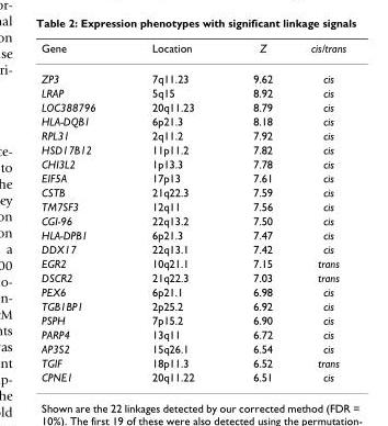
<table><thead><tr><td>Gene</td><td>Location</td><td>Z</td><td>cis/trans</td></tr></thead><tbody><tr><td>ZP3</td><td>7q11.23</td><td>9.62</td><td>cis</td></tr><tr><td>LRAP</td><td>5q15</td><td>8.92</td><td>cis</td></tr><tr><td>LOC388796</td><td>20q11.23</td><td>8.79</td><td>cis</td></tr><tr><td>HLA-DQB1</td><td>6p21.3</td><td>8.18</td><td>cis</td></tr><tr><td>RPL31</td><td>2q11.2</td><td>7.92</td><td>cis</td></tr><tr><td>HSD17B12</td><td>11p11.2</td><td>7.82</td><td>cis</td></tr><tr><td>CHI3L2</td><td>1p13.3</td><td>7.78</td><td>cis</td></tr><tr><td>EIF5A</td><td>17p13</td><td>7.61</td><td>cis</td></tr><tr><td>CSTB</td><td>21q22.3</td><td>7.59</td><td>cis</td></tr><tr><td>TM7SF3</td><td>12q11</td><td>7.56</td><td>cis</td></tr><tr><td>CGI-96</td><td>22q13.2</td><td>7.50</td><td>cis</td></tr><tr><td>HLA-DPB1</td><td>6p21.3</td><td>7.47</td><td>cis</td></tr><tr><td>DDX17</td><td>22q13.1</td><td>7.42</td><td>cis</td></tr><tr><td>EGR2</td><td>10q21.1</td><td>7.15</td><td>trans</td></tr><tr><td>DSCR2</td><td>21q22.3</td><td>7.03</td><td>trans</td></tr><tr><td>PEX6</td><td>6p21.1</td><td>6.98</td><td>cis</td></tr><tr><td>TGB1BP1</td><td>2p25.2</td><td>6.92</td><td>cis</td></tr><tr><td>PSPH</td><td>7p15.2</td><td>6.90</td><td>cis</td></tr><tr><td>PARP4</td><td>13q11</td><td>6.72</td><td>cis</td></tr><tr><td>AP3S2</td><td>15q26.1</td><td>6.54</td><td>cis</td></tr><tr><td>TGIF</td><td>18p11.3</td><td>6.52</td><td>trans</td></tr><tr><td>CPNE1</td><td>20q11.22</td><td>6.51</td><td>cis</td></tr></tbody></table>